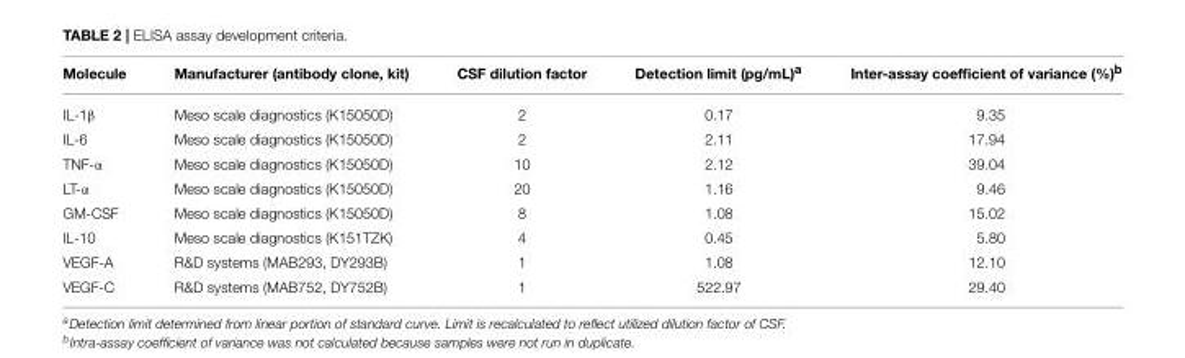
<table><thead><tr><td>Molecule</td><td>Manufacturer (antibody clone, kit)</td><td>CSF dilution factor</td><td>Detection limit (pg/mL)<sup>a</sup></td><td>Inter-assay coefficient of variance (%)<sup>b</sup></td></tr></thead><tbody><tr><td>IL-1β</td><td>Meso scale diagnostics (K15050D)</td><td>2</td><td>0.17</td><td>9.35</td></tr><tr><td>IL-6</td><td>Meso scale diagnostics (K15050D)</td><td>2</td><td>2.11</td><td>17.94</td></tr><tr><td>TNF-α</td><td>Meso scale diagnostics (K15050D)</td><td>10</td><td>2.12</td><td>39.04</td></tr><tr><td>LT-α</td><td>Meso scale diagnostics (K15050D)</td><td>20</td><td>1.16</td><td>9.46</td></tr><tr><td>GM-CSF</td><td>Meso scale diagnostics (K15050D)</td><td>8</td><td>1.08</td><td>15.02</td></tr><tr><td>IL-10</td><td>Meso scale diagnostics (K151TZK)</td><td>4</td><td>0.45</td><td>5.80</td></tr><tr><td>VEGF-A</td><td>R&amp;D systems (MAB293, DY293B)</td><td>1</td><td>1.08</td><td>12.10</td></tr><tr><td>VEGF-C</td><td>R&amp;D systems (MAB752, DY752B)</td><td>1</td><td>522.97</td><td>29.40</td></tr></tbody></table>